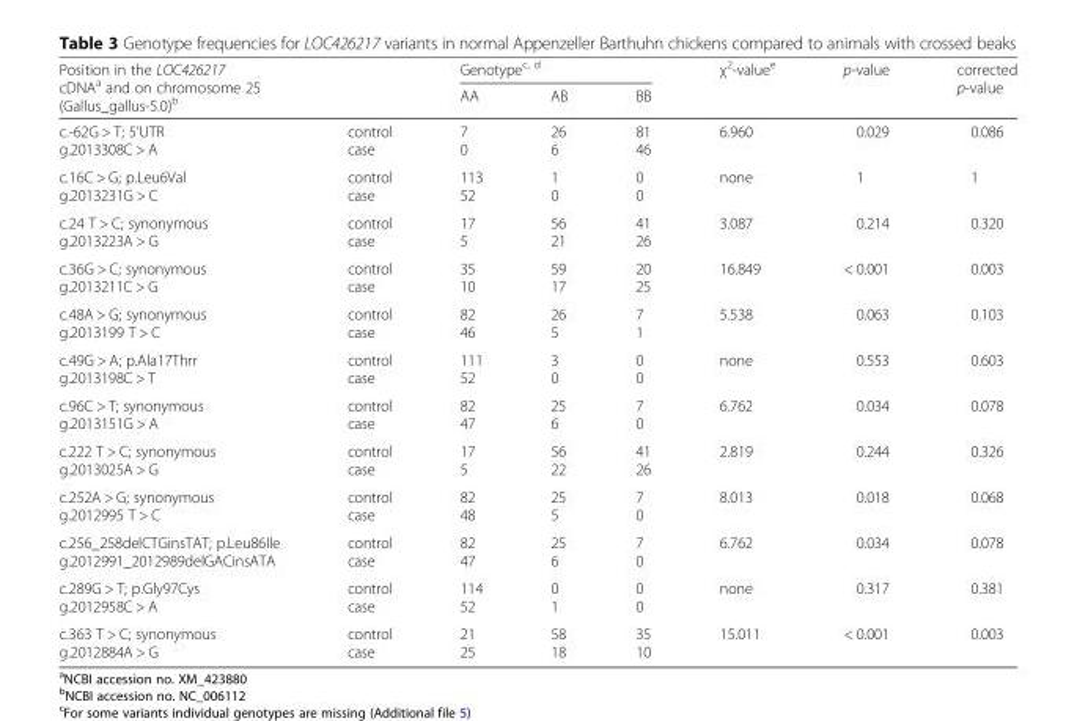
<table><thead><tr><td rowspan="2">Position in the LOC426217 cDNA<sup>a</sup> and on chromosome 25 (Gallus_gallus-5.0)<sup>b</sup></td><td rowspan="2"></td><td colspan="3">Genotype<sup>c, d</sup></td><td rowspan="2">χ<sup>2</sup>-value<sup>e</sup></td><td rowspan="2">p-value</td><td rowspan="2">corrected p-value</td></tr><tr><td>AA</td><td>AB</td><td>BB</td></tr></thead><tbody><tr><td>c.-62G &gt; T; 5’UTR g.2013308C &gt; A</td><td>control case</td><td>7 0</td><td>26 6</td><td>81 46</td><td>6.960</td><td>0.029</td><td>0.086</td></tr><tr><td>c.16C &gt; G; p.Leu6Val g.2013231G &gt; C</td><td>control case</td><td>113 52</td><td>1 0</td><td>0 0</td><td>none</td><td>1</td><td>1</td></tr><tr><td>c.24 T &gt; C; synonymous g.2013223A &gt; G</td><td>control case</td><td>17 5</td><td>56 21</td><td>41 26</td><td>3.087</td><td>0.214</td><td>0.320</td></tr><tr><td>c.36G &gt; C; synonymous g.2013211C &gt; G</td><td>control case</td><td>35 10</td><td>59 17</td><td>20 25</td><td>16.849</td><td>&lt; 0.001</td><td>0.003</td></tr><tr><td>c.48A &gt; G; synonymous g.2013199 T &gt; C</td><td>control case</td><td>82 46</td><td>26 5</td><td>7 1</td><td>5.538</td><td>0.063</td><td>0.103</td></tr><tr><td>c.49G &gt; A; p.Ala17Thrr g.2013198C &gt; T</td><td>control case</td><td>111 52</td><td>3 0</td><td>0 0</td><td>none</td><td>0.553</td><td>0.603</td></tr><tr><td>c.96C &gt; T; synonymous g.2013151G &gt; A</td><td>control case</td><td>82 47</td><td>25 6</td><td>7 0</td><td>6.762</td><td>0.034</td><td>0.078</td></tr><tr><td>c.222 T &gt; C; synonymous g.2013025A &gt; G</td><td>control case</td><td>17 5</td><td>56 22</td><td>41 26</td><td>2.819</td><td>0.244</td><td>0.326</td></tr><tr><td>c.252A &gt; G; synonymous g.2012995 T &gt; C</td><td>control case</td><td>82 48</td><td>25 5</td><td>7 0</td><td>8.013</td><td>0.018</td><td>0.068</td></tr><tr><td>c.256_258delCTGinsTAT; p.Leu86Ile g.2012991_2012989delGACinsATA</td><td>control case</td><td>82 47</td><td>25 6</td><td>7 0</td><td>6.762</td><td>0.034</td><td>0.078</td></tr><tr><td>c.289G &gt; T; p.Gly97Cys g.2012958C &gt; A</td><td>control case</td><td>114 52</td><td>0 1</td><td>0 0</td><td>none</td><td>0.317</td><td>0.381</td></tr><tr><td>c.363 T &gt; C; synonymous g.2012884A &gt; G</td><td>control case</td><td>21 25</td><td>58 18</td><td>35 10</td><td>15.011</td><td>&lt; 0.001</td><td>0.003</td></tr></tbody></table>